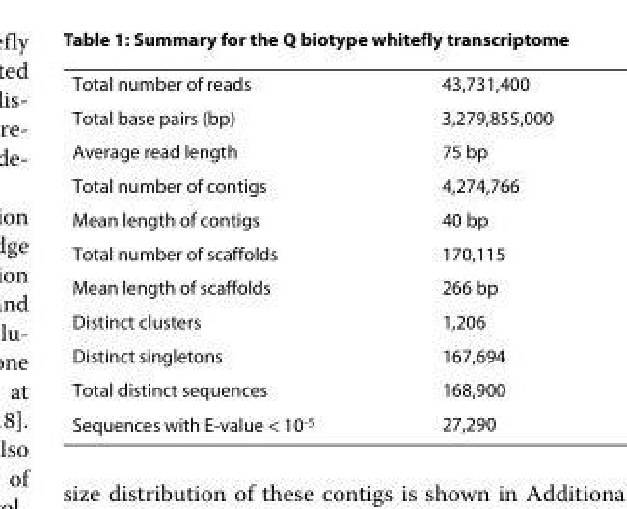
<table><tbody><tr><td>Total number of reads</td><td>43,731,400</td></tr><tr><td>Total base pairs (bp)</td><td>3,279,855,000</td></tr><tr><td>Average read length</td><td>75 bp</td></tr><tr><td>Total number of contigs</td><td>4,274,766</td></tr><tr><td>Mean length of contigs</td><td>40 bp</td></tr><tr><td>Total number of scaffolds</td><td>170,115</td></tr><tr><td>Mean length of scaffolds</td><td>266 bp</td></tr><tr><td>Distinct clusters</td><td>1,206</td></tr><tr><td>Distinct singletons</td><td>167,694</td></tr><tr><td>Total distinct sequences</td><td>168,900</td></tr><tr><td>Sequences with E-value &lt; 10<sup>-5</sup></td><td>27,290</td></tr></tbody></table>